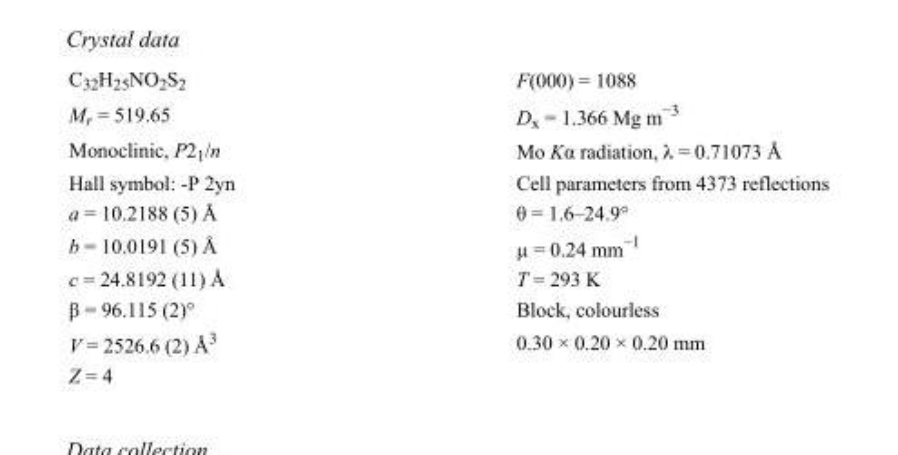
<table><tbody><tr><td>C<sub>32</sub>H<sub>25</sub>NO<sub>2</sub>S<sub>2</sub></td><td>F(000) = 1088</td></tr><tr><td>M<sub>r</sub> = 519.65</td><td>D<sub>x</sub> = 1.366 Mg m<sup>−3</sup></td></tr><tr><td>Monoclinic, P2<sub>1</sub>/n</td><td>Mo Kα radiation, λ = 0.71073 Å</td></tr><tr><td>Hall symbol: -P 2yn</td><td>Cell parameters from 4373 reflections</td></tr><tr><td>a = 10.2188 (5) Å</td><td>θ = 1.6–24.9°</td></tr><tr><td>b = 10.0191 (5) Å</td><td>µ = 0.24 mm<sup>−1</sup></td></tr><tr><td>c = 24.8192 (11) Å</td><td>T = 293 K</td></tr><tr><td>β = 96.115 (2)°</td><td>Block, colourless</td></tr><tr><td>V = 2526.6 (2) Å<sup>3</sup></td><td>0.30 × 0.20 × 0.20 mm</td></tr><tr><td>Z = 4</td><td></td></tr></tbody></table>